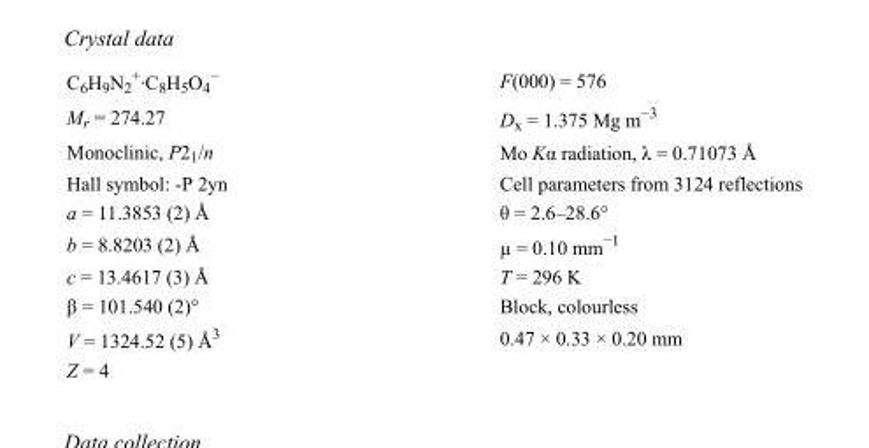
<table><tbody><tr><td>C<sub>6</sub>H<sub>9</sub>N<sub>2</sub> <sup>+</sup>·C<sub>8</sub>H<sub>5</sub>O<sub>4</sub> <sup>−</sup></td><td>F(000) = 576</td></tr><tr><td>M<sub>r</sub> = 274.27</td><td>D<sub>x</sub> = 1.375 Mg m<sup>−3</sup></td></tr><tr><td>Monoclinic, P2<sub>1</sub>/n</td><td>Mo Kα radiation, λ = 0.71073 Å</td></tr><tr><td>Hall symbol: -P 2yn</td><td>Cell parameters from 3124 reflections</td></tr><tr><td>a = 11.3853 (2) Å</td><td>θ = 2.6–28.6°</td></tr><tr><td>b = 8.8203 (2) Å</td><td>µ = 0.10 mm<sup>−1</sup></td></tr><tr><td>c = 13.4617 (3) Å</td><td>T = 296 K</td></tr><tr><td>β = 101.540 (2)°</td><td>Block, colourless</td></tr><tr><td>V = 1324.52 (5) Å<sup>3</sup></td><td>0.47 × 0.33 × 0.20 mm</td></tr><tr><td>Z = 4</td><td></td></tr></tbody></table>